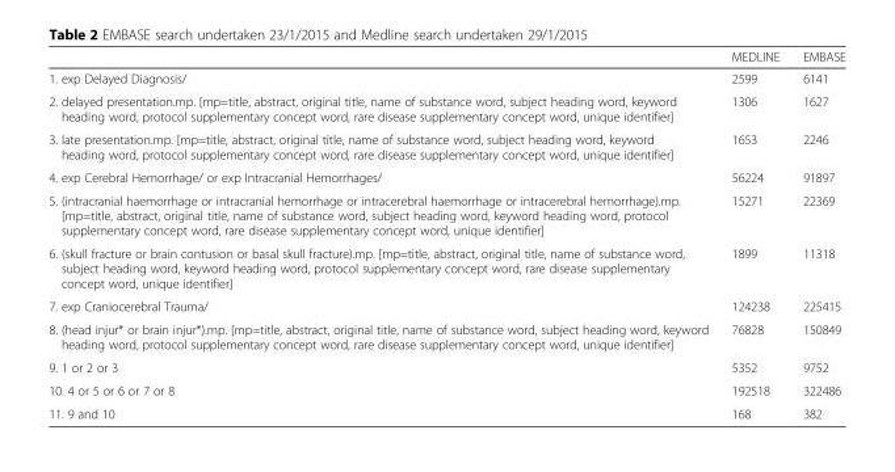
<table><thead><tr><td></td><td>MEDLINE</td><td>EMBASE</td></tr></thead><tbody><tr><td>1. exp Delayed Diagnosis/</td><td>2599</td><td>6141</td></tr><tr><td>2. delayed presentation.mp. [mp=title, abstract, original title, name of substance word, subject heading word, keyword heading word, protocol supplementary concept word, rare disease supplementary concept word, unique identifier]</td><td>1306</td><td>1627</td></tr><tr><td>3. late presentation.mp. [mp=title, abstract, original title, name of substance word, subject heading word, keyword heading word, protocol supplementary concept word, rare disease supplementary concept word, unique identifier]</td><td>1653</td><td>2246</td></tr><tr><td>4. exp Cerebral Hemorrhage/ or exp Intracranial Hemorrhages/</td><td>56224</td><td>91897</td></tr><tr><td>5. (intracranial haemorrhage or intracranial hemorrhage or intracerebral haemorrhage or intracerebral hemorrhage).mp. [mp=title, abstract, original title, name of substance word, subject heading word, keyword heading word, protocol supplementary concept word, rare disease supplementary concept word, unique identifier]</td><td>15271</td><td>22369</td></tr><tr><td>6. (skull fracture or brain contusion or basal skull fracture).mp. [mp=title, abstract, original title, name of substance word, subject heading word, keyword heading word, protocol supplementary concept word, rare disease supplementary concept word, unique identifier]</td><td>1899</td><td>11318</td></tr><tr><td>7. exp Craniocerebral Trauma/</td><td>124238</td><td>225415</td></tr><tr><td>8. (head injur* or brain injur*).mp. [mp=title, abstract, original title, name of substance word, subject heading word, keyword heading word, protocol supplementary concept word, rare disease supplementary concept word, unique identifier]</td><td>76828</td><td>150849</td></tr><tr><td>9. 1 or 2 or 3</td><td>5352</td><td>9752</td></tr><tr><td>10. 4 or 5 or 6 or 7 or 8</td><td>192518</td><td>322486</td></tr><tr><td>11. 9 and 10</td><td>168</td><td>382</td></tr></tbody></table>